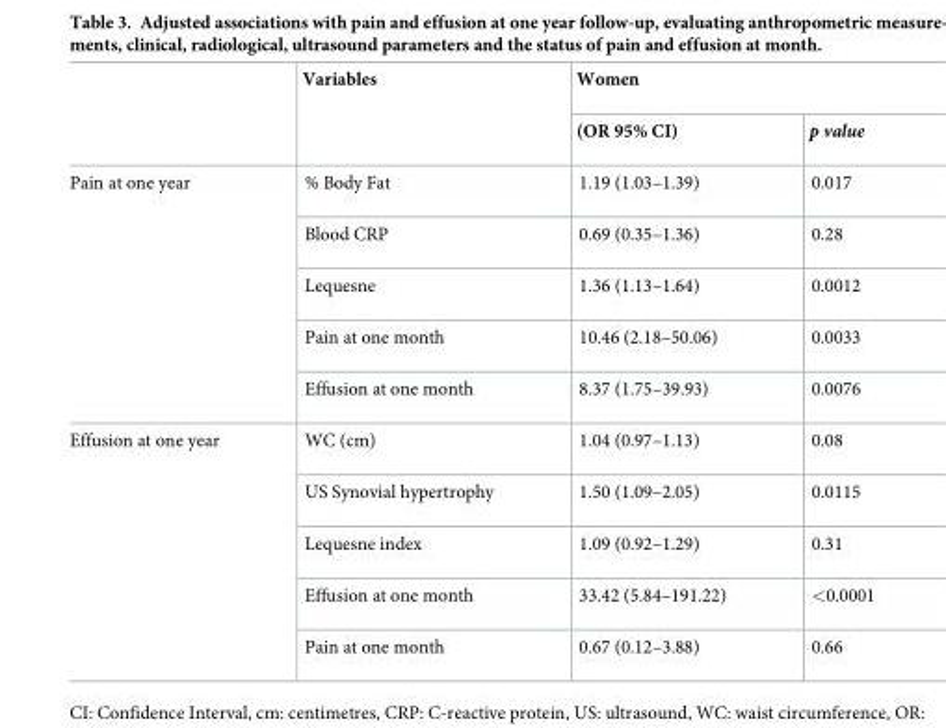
<table><thead><tr><td rowspan="2"></td><td rowspan="2">Variables</td><td colspan="2">Women</td></tr><tr><td>(OR 95% CI)</td><td>p value</td></tr></thead><tbody><tr><td rowspan="5">Pain at one year</td><td>% Body Fat</td><td>1.19 (1.03–1.39)</td><td>0.017</td></tr><tr><td>Blood CRP</td><td>0.69 (0.35–1.36)</td><td>0.28</td></tr><tr><td>Lequesne</td><td>1.36 (1.13–1.64)</td><td>0.0012</td></tr><tr><td>Pain at one month</td><td>10.46 (2.18–50.06)</td><td>0.0033</td></tr><tr><td>Effusion at one month</td><td>8.37 (1.75–39.93)</td><td>0.0076</td></tr><tr><td rowspan="5">Effusion at one year</td><td>WC (cm)</td><td>1.04 (0.97–1.13)</td><td>0.08</td></tr><tr><td>US Synovial hypertrophy</td><td>1.50 (1.09–2.05)</td><td>0.0115</td></tr><tr><td>Lequesne index</td><td>1.09 (0.92–1.29)</td><td>0.31</td></tr><tr><td>Effusion at one month</td><td>33.42 (5.84–191.22)</td><td>&lt;0.0001</td></tr><tr><td>Pain at one month</td><td>0.67 (0.12–3.88)</td><td>0.66</td></tr></tbody></table>